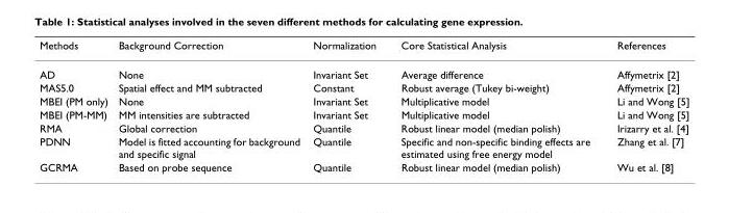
<table><thead><tr><td>Methods</td><td>Background Correction</td><td>Normalization</td><td>Core Statistical Analysis</td><td>References</td></tr></thead><tbody><tr><td>AD</td><td>None</td><td>Invariant Set</td><td>Average difference</td><td>Affymetrix [2]</td></tr><tr><td>MAS5.0</td><td>Spatial effect and MM subtracted</td><td>Constant</td><td>Robust average (Tukey bi-weight)</td><td>Affymetrix [2]</td></tr><tr><td>MBEI (PM only)</td><td>None</td><td>Invariant Set</td><td>Multiplicative model</td><td>Li and Wong [5]</td></tr><tr><td>MBEI (PM-MM)</td><td>MM intensities are subtracted</td><td>Invariant Set</td><td>Multiplicative model</td><td>Li and Wong [5]</td></tr><tr><td>RMA</td><td>Global correction</td><td>Quantile</td><td>Robust linear model (median polish)</td><td>Irizarry et al. [4]</td></tr><tr><td>PDNN</td><td>Model is fitted accounting for background and specific signal</td><td>Quantile</td><td>Specific and non-specific binding effects are estimated using free energy model</td><td>Zhang et al. [7]</td></tr><tr><td>GCRMA</td><td>Based on probe sequence</td><td>Quantile</td><td>Robust linear model (median polish)</td><td>Wu et al. [8]</td></tr></tbody></table>